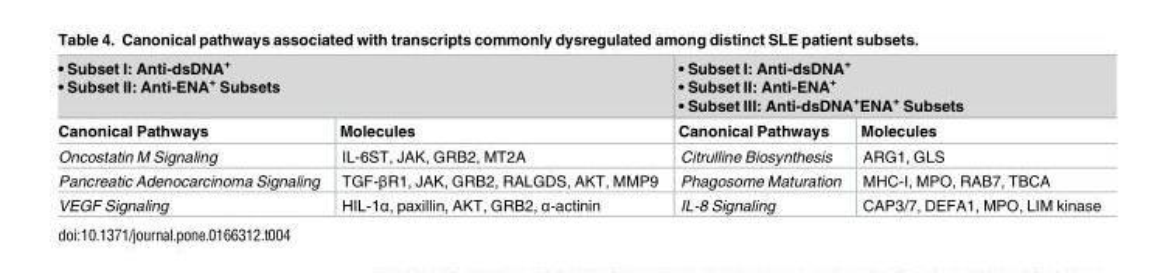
<table><thead><tr><td colspan="2">• Subset I: Anti-dsDNA<sup>+</sup> • Subset II: Anti-ENA<sup>+</sup> Subsets</td><td colspan="2">• Subset I: Anti-dsDNA<sup>+</sup> • Subset II: Anti-ENA<sup>+</sup> • Subset III: Anti-dsDNA<sup>+</sup>ENA<sup>+</sup> Subsets</td></tr><tr><td>Canonical Pathways</td><td>Molecules</td><td>Canonical Pathways</td><td>Molecules</td></tr></thead><tbody><tr><td>Oncostatin M Signaling</td><td>IL-6ST, JAK, GRB2, MT2A</td><td>Citrulline Biosynthesis</td><td>ARG1, GLS</td></tr><tr><td>Pancreatic Adenocarcinoma Signaling</td><td>TGF-βR1, JAK, GRB2, RALGDS, AKT, MMP9</td><td>Phagosome Maturation</td><td>MHC-I, MPO, RAB7, TBCA</td></tr><tr><td>VEGF Signaling</td><td>HIL-1α, paxillin, AKT, GRB2, α-actinin</td><td>IL-8 Signaling</td><td>CAP3/7, DEFA1, MPO, LIM kinase</td></tr></tbody></table>